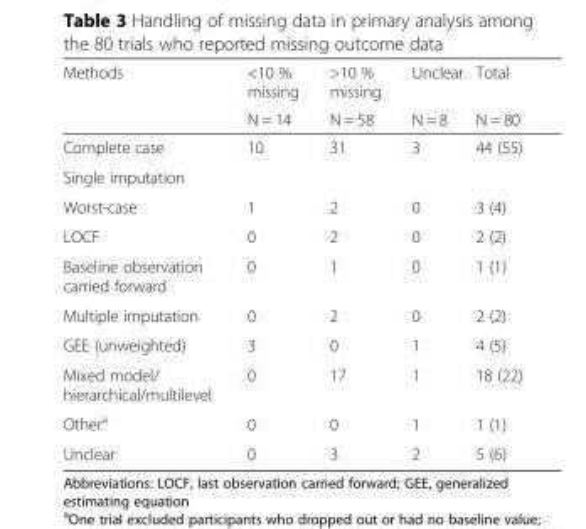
<table><thead><tr><td rowspan="2">Methods</td><td rowspan="2">&lt;10 % missing N = 14</td><td rowspan="2">&gt;10 % missing N = 58</td><td rowspan="2">Unclear N = 8</td><td rowspan="2">Total N = 80</td></tr><tr></tr></thead><tbody><tr><td>Complete case</td><td>10</td><td>31</td><td>3</td><td>44 (55)</td></tr><tr><td colspan="5">Single imputation</td></tr><tr><td>Worst-case</td><td>1</td><td>2</td><td>0</td><td>3 (4)</td></tr><tr><td>LOCF</td><td>0</td><td>2</td><td>0</td><td>2 (2)</td></tr><tr><td>Baseline observation carried forward</td><td>0</td><td>1</td><td>0</td><td>1 (1)</td></tr><tr><td>Multiple imputation</td><td>0</td><td>2</td><td>0</td><td>2 (2)</td></tr><tr><td>GEE (unweighted)</td><td>3</td><td>0</td><td>1</td><td>4 (5)</td></tr><tr><td>Mixed model/ hierarchical/multilevel</td><td>0</td><td>17</td><td>1</td><td>18 (22)</td></tr><tr><td>Other<sup>a</sup></td><td>0</td><td>0</td><td>1</td><td>1 (1)</td></tr><tr><td>Unclear</td><td>0</td><td>3</td><td>2</td><td>5 (6)</td></tr></tbody></table>